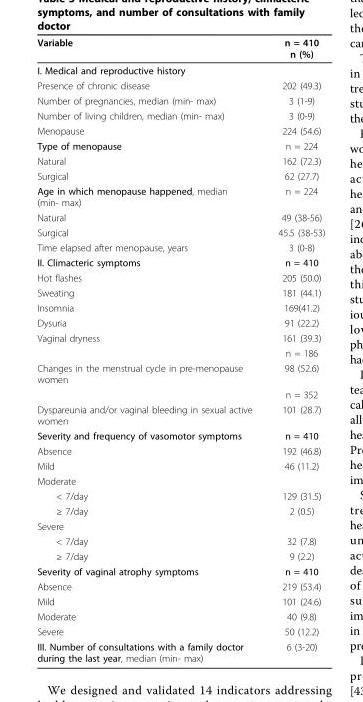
<table><thead><tr><td>Variable</td><td>n = 410 n (%)</td></tr></thead><tbody><tr><td colspan="2">I. Medical and reproductive history</td></tr><tr><td>Presence of chronic disease</td><td>202 (49.3)</td></tr><tr><td>Number of pregnancies, median (min- max)</td><td>3 (1-9)</td></tr><tr><td>Number of living children, median (min- max)</td><td>3 (0-9)</td></tr><tr><td>Menopause</td><td>224 (54.6)</td></tr><tr><td>Type of menopause</td><td>n = 224</td></tr><tr><td>Natural</td><td>162 (72.3)</td></tr><tr><td>Surgical</td><td>62 (27.7)</td></tr><tr><td>Age in which menopause happened, median (min- max)</td><td>n = 224</td></tr><tr><td>Natural</td><td>49 (38-56)</td></tr><tr><td>Surgical</td><td>45.5 (38-53)</td></tr><tr><td>Time elapsed after menopause, years</td><td>3 (0-8)</td></tr><tr><td>II. Climacteric symptoms</td><td>n = 410</td></tr><tr><td>Hot flashes</td><td>205 (50.0)</td></tr><tr><td>Sweating</td><td>181 (44.1)</td></tr><tr><td>Insomnia</td><td>169(41.2)</td></tr><tr><td>Dysuria</td><td>91 (22.2)</td></tr><tr><td rowspan="2">Vaginal dryness</td><td>161 (39.3)</td></tr><tr><td>n = 186</td></tr><tr><td rowspan="2">Changes in the menstrual cycle in pre-menopause women</td><td>98 (52.6)</td></tr><tr><td>n = 352</td></tr><tr><td>Dyspareunia and/or vaginal bleeding in sexual active women</td><td>101 (28.7)</td></tr><tr><td>Severity and frequency of vasomotor symptoms</td><td>n = 410</td></tr><tr><td>Absence</td><td>192 (46.8)</td></tr><tr><td>Mild</td><td>46 (11.2)</td></tr><tr><td colspan="2">Moderate</td></tr><tr><td>&lt; 7/day</td><td>129 (31.5)</td></tr><tr><td>≥ 7/day</td><td>2 (0.5)</td></tr><tr><td colspan="2">Severe</td></tr><tr><td>&lt; 7/day</td><td>32 (7.8)</td></tr><tr><td>≥ 7/day</td><td>9 (2.2)</td></tr><tr><td>Severity of vaginal atrophy symptoms</td><td>n = 410</td></tr><tr><td>Absence</td><td>219 (53.4)</td></tr><tr><td>Mild</td><td>101 (24.6)</td></tr><tr><td>Moderate</td><td>40 (9.8)</td></tr><tr><td>Severe</td><td>50 (12.2)</td></tr><tr><td>III. Number of consultations with a family doctor during the last year, median (min- max)</td><td>6 (3-20)</td></tr></tbody></table>